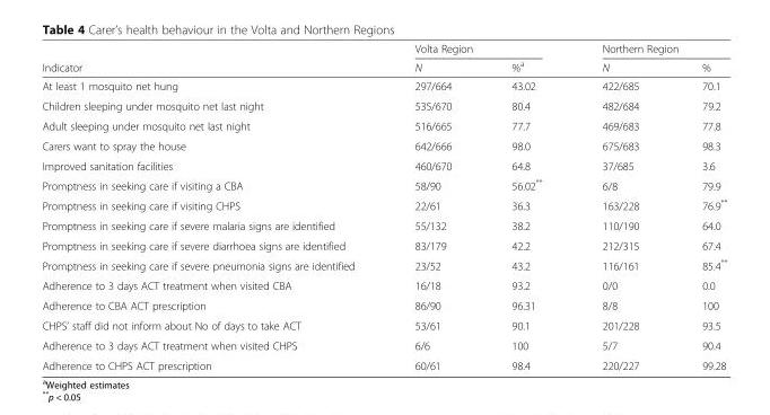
<table><thead><tr><td rowspan="2">Indicator</td><td colspan="2">Volta Region</td><td colspan="2">Northern Region</td></tr><tr><td>N</td><td>%<sup>a</sup></td><td>N</td><td>%</td></tr></thead><tbody><tr><td>At least 1 mosquito net hung</td><td>297/664</td><td>43.02</td><td>422/685</td><td>70.1</td></tr><tr><td>Children sleeping under mosquito net last night</td><td>535/670</td><td>80.4</td><td>482/684</td><td>79.2</td></tr><tr><td>Adult sleeping under mosquito net last night</td><td>516/665</td><td>77.7</td><td>469/683</td><td>77.8</td></tr><tr><td>Carers want to spray the house</td><td>642/666</td><td>98.0</td><td>675/683</td><td>98.3</td></tr><tr><td>Improved sanitation facilities</td><td>460/670</td><td>64.8</td><td>37/685</td><td>3.6</td></tr><tr><td>Promptness in seeking care if visiting a CBA</td><td>58/90</td><td>56.02**</td><td>6/8</td><td>79.9</td></tr><tr><td>Promptness in seeking care if visiting CHPS</td><td>22/61</td><td>36.3</td><td>163/228</td><td>76.9**</td></tr><tr><td>Promptness in seeking care if severe malaria signs are identified</td><td>55/132</td><td>38.2</td><td>110/190</td><td>64.0</td></tr><tr><td>Promptness in seeking care if severe diarrhoea signs are identified</td><td>83/179</td><td>42.2</td><td>212/315</td><td>67.4</td></tr><tr><td>Promptness in seeking care if severe pneumonia signs are identified</td><td>23/52</td><td>43.2</td><td>116/161</td><td>85.4**</td></tr><tr><td>Adherence to 3 days ACT treatment when visited CBA</td><td>16/18</td><td>93.2</td><td>0/0</td><td>0.0</td></tr><tr><td>Adherence to CBA ACT prescription</td><td>86/90</td><td>96.31</td><td>8/8</td><td>100</td></tr><tr><td>CHPS’ staff did not inform about No of days to take ACT</td><td>53/61</td><td>90.1</td><td>201/228</td><td>93.5</td></tr><tr><td>Adherence to 3 days ACT treatment when visited CHPS</td><td>6/6</td><td>100</td><td>5/7</td><td>90.4</td></tr><tr><td>Adherence to CHPS ACT prescription</td><td>60/61</td><td>98.4</td><td>220/227</td><td>99.28</td></tr></tbody></table>